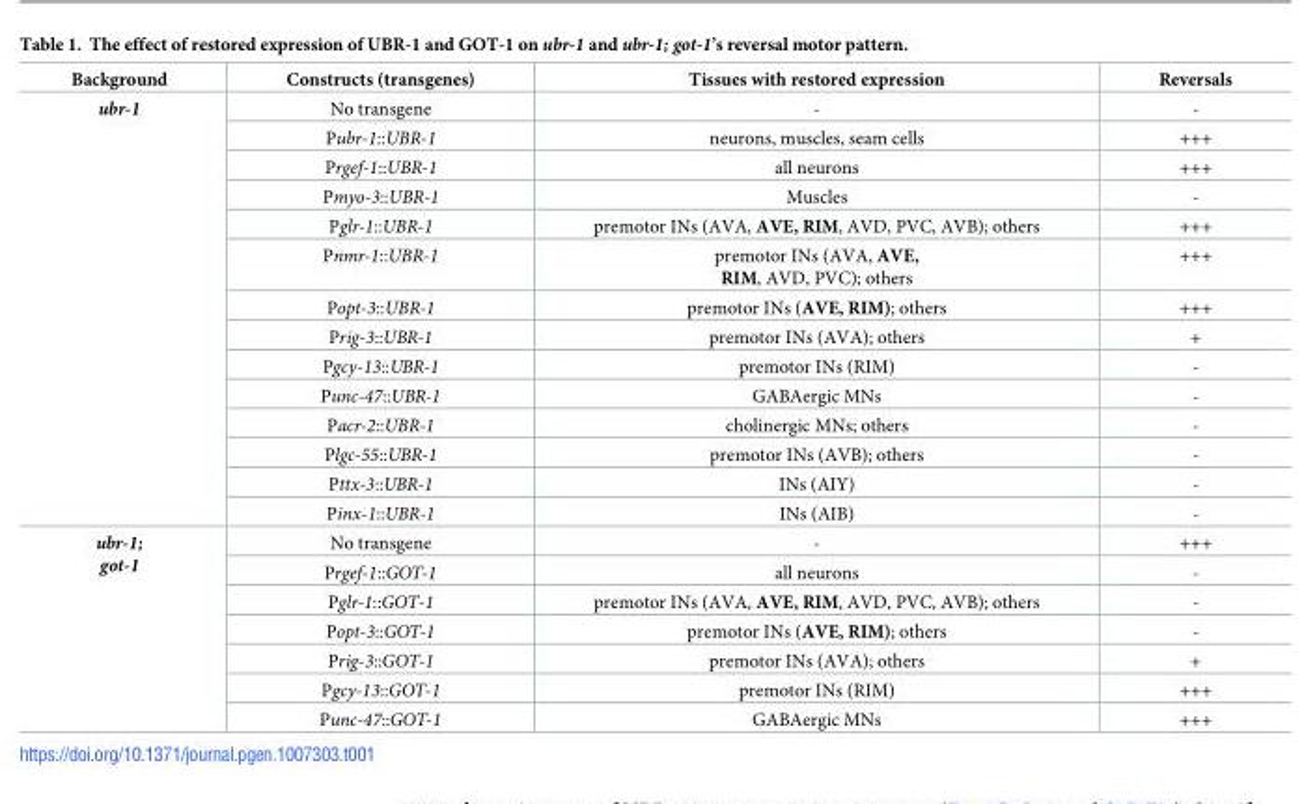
<table><thead><tr><td>Background</td><td>Constructs (transgenes)</td><td>Tissues with restored expression</td><td>Reversals</td></tr></thead><tbody><tr><td rowspan="14">ubr-1</td><td>No transgene</td><td>-</td><td>-</td></tr><tr><td>Pubr-1::UBR-1</td><td>neurons, muscles, seam cells</td><td>+++</td></tr><tr><td>Prgef-1::UBR-1</td><td>all neurons</td><td>+++</td></tr><tr><td>Pmyo-3::UBR-1</td><td>Muscles</td><td>-</td></tr><tr><td>Pglr-1::UBR-1</td><td>premotor INs (AVA, AVE, RIM, AVD, PVC, AVB); others</td><td>+++</td></tr><tr><td>Pnmr-1::UBR-1</td><td>premotor INs (AVA, AVE, RIM, AVD, PVC); others</td><td>+++</td></tr><tr><td>Popt-3::UBR-1</td><td>premotor INs (AVE, RIM); others</td><td>+++</td></tr><tr><td>Prig-3::UBR-1</td><td>premotor INs (AVA); others</td><td>+</td></tr><tr><td>Pgcy-13::UBR-1</td><td>premotor INs (RIM)</td><td>-</td></tr><tr><td>Punc-47::UBR-1</td><td>GABAergic MNs</td><td>-</td></tr><tr><td>Pacr-2::UBR-1</td><td>cholinergic MNs; others</td><td>-</td></tr><tr><td>Plgc-55::UBR-1</td><td>premotor INs (AVB); others</td><td>-</td></tr><tr><td>Pttx-3::UBR-1</td><td>INs (AIY)</td><td>-</td></tr><tr><td>Pinx-1::UBR-1</td><td>INs (AIB)</td><td>-</td></tr><tr><td rowspan="7">ubr-1; got-1</td><td>No transgene</td><td>-</td><td>+++</td></tr><tr><td>Prgef-1::GOT-1</td><td>all neurons</td><td>-</td></tr><tr><td>Pglr-1::GOT-1</td><td>premotor INs (AVA, AVE, RIM, AVD, PVC, AVB); others</td><td>-</td></tr><tr><td>Popt-3::GOT-1</td><td>premotor INs (AVE, RIM); others</td><td>-</td></tr><tr><td>Prig-3::GOT-1</td><td>premotor INs (AVA); others</td><td>+</td></tr><tr><td>Pgcy-13::GOT-1</td><td>premotor INs (RIM)</td><td>+++</td></tr><tr><td>Punc-47::GOT-1</td><td>GABAergic MNs</td><td>+++</td></tr></tbody></table>